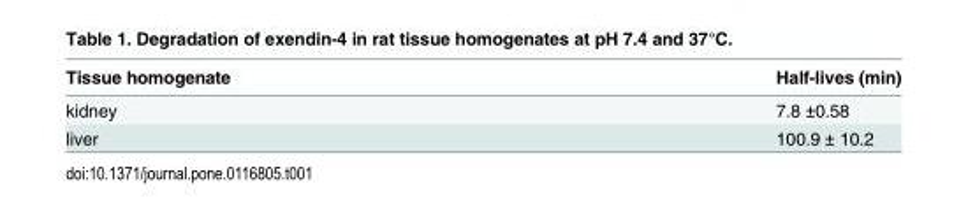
<table><thead><tr><td>Tissue homogenate</td><td>Half-lives (min)</td></tr></thead><tbody><tr><td>kidney</td><td>7.8 ±0.58</td></tr><tr><td>liver</td><td>100.9 ± 10.2</td></tr></tbody></table>